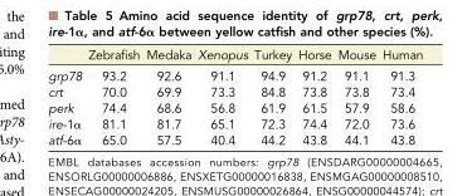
<table><thead><tr><td></td><td>Zebrafish</td><td>Medaka</td><td>Xenopus</td><td>Turkey</td><td>Horse</td><td>Mouse</td><td>Human</td></tr></thead><tbody><tr><td>grp78</td><td>93.2</td><td>92.6</td><td>91.1</td><td>94.9</td><td>91.2</td><td>91.1</td><td>91.3</td></tr><tr><td>crt</td><td>70.0</td><td>69.9</td><td>73.3</td><td>84.8</td><td>73.8</td><td>73.8</td><td>73.4</td></tr><tr><td>perk</td><td>74.4</td><td>68.6</td><td>56.8</td><td>61.9</td><td>61.5</td><td>57.9</td><td>58.6</td></tr><tr><td>ire-1α</td><td>81.1</td><td>81.7</td><td>65.1</td><td>72.3</td><td>74.4</td><td>72.0</td><td>73.6</td></tr><tr><td>atf-6α</td><td>65.0</td><td>57.5</td><td>40.4</td><td>44.2</td><td>43.8</td><td>44.1</td><td>43.8</td></tr></tbody></table>